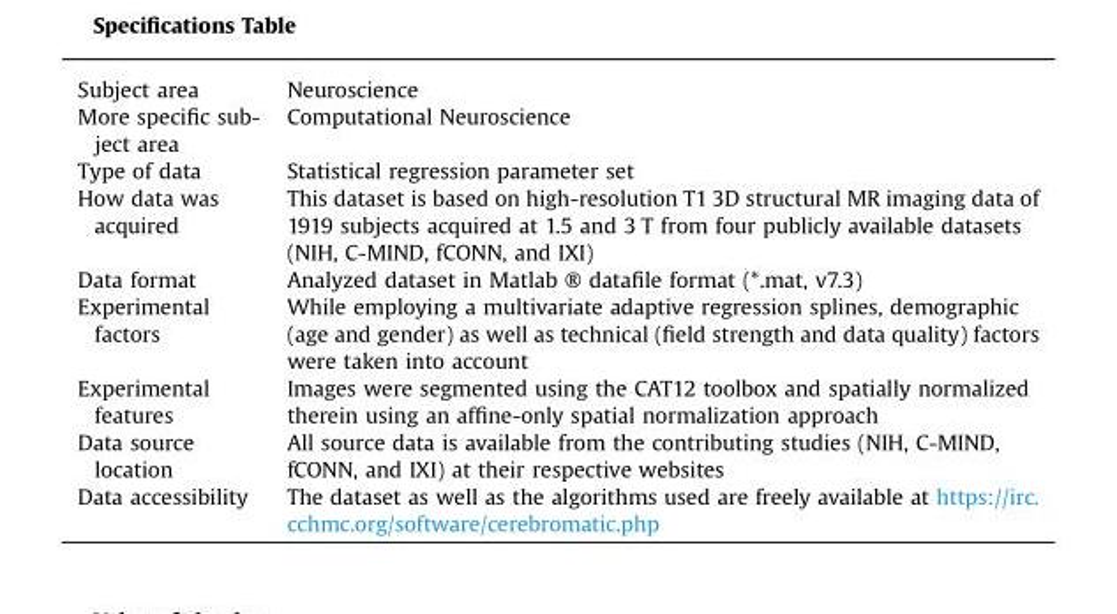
<table><tbody><tr><td>Subject area</td><td>Neuroscience</td></tr><tr><td>More specific sub- ject area</td><td>Computational Neuroscience</td></tr><tr><td>Type of data</td><td>Statistical regression parameter set</td></tr><tr><td>How data was acquired</td><td>This dataset is based on high-resolution T1 3D structural MR imaging data of 1919 subjects acquired at 1.5 and 3 T from four publicly available datasets (NIH, C-MIND, fCONN, and IXI)</td></tr><tr><td>Data format</td><td>Analyzed dataset in Matlab ® datafile format (*.mat, v7.3)</td></tr><tr><td>Experimental factors</td><td>While employing a multivariate adaptive regression splines, demographic (age and gender) as well as technical (field strength and data quality) factors were taken into account</td></tr><tr><td>Experimental features</td><td>Images were segmented using the CAT12 toolbox and spatially normalized therein using an affine-only spatial normalization approach</td></tr><tr><td>Data source location</td><td>All source data is available from the contributing studies (NIH, C-MIND, fCONN, and IXI) at their respective websites</td></tr><tr><td>Data accessibility</td><td>The dataset as well as the algorithms used are freely available at https://irc. cchmc.org/software/cerebromatic.php</td></tr></tbody></table>